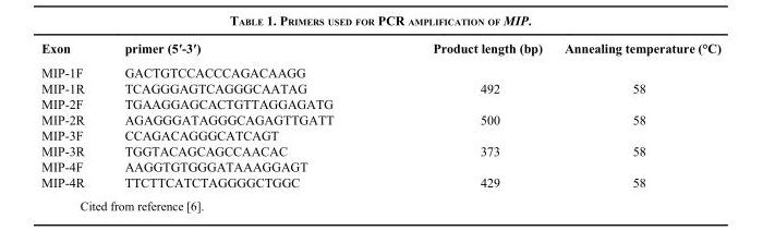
<table><thead><tr><td>Exon</td><td>primer (5′-3′)</td><td>Product length (bp)</td><td>Annealing temperature (°C)</td></tr></thead><tbody><tr><td>MIP-1F</td><td>GACTGTCCACCCAGACAAGG</td><td></td><td></td></tr><tr><td>MIP-1R</td><td>TCAGGGAGTCAGGGCAATAG</td><td>492</td><td>58</td></tr><tr><td>MIP-2F</td><td>TGAAGGAGCACTGTTAGGAGATG</td><td></td><td></td></tr><tr><td>MIP-2R</td><td>AGAGGGATAGGGCAGAGTTGATT</td><td>500</td><td>58</td></tr><tr><td>MIP-3F</td><td>CCAGACAGGGCATCAGT</td><td></td><td></td></tr><tr><td>MIP-3R</td><td>TGGTACAGCAGCCAACAC</td><td>373</td><td>58</td></tr><tr><td>MIP-4F</td><td>AAGGTGTGGGATAAAGGAGT</td><td></td><td></td></tr><tr><td>MIP-4R</td><td>TTCTTCATCTAGGGGCTGGC</td><td>429</td><td>58</td></tr></tbody></table>